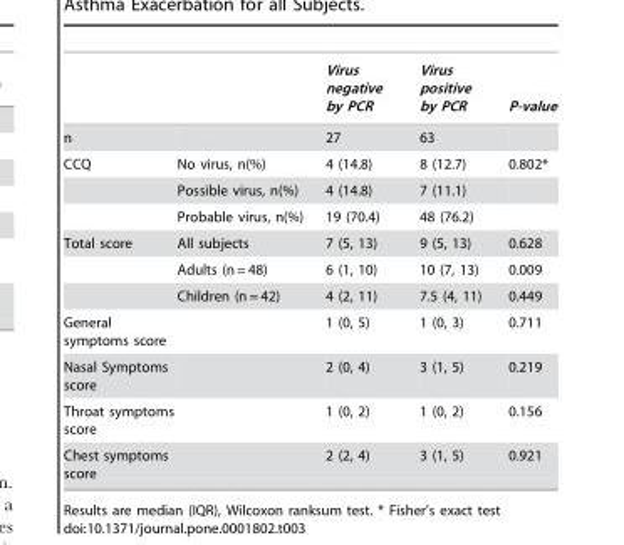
<table><thead><tr><td></td><td></td><td>Virus negative by PCR</td><td>Virus positive by PCR</td><td>P-value</td></tr></thead><tbody><tr><td>n</td><td></td><td>27</td><td>63</td><td></td></tr><tr><td rowspan="3">CCQ</td><td>No virus, n(%)</td><td>4 (14.8)</td><td>8 (12.7)</td><td>0.802*</td></tr><tr><td>Possible virus, n(%)</td><td>4 (14.8)</td><td>7 (11.1)</td><td></td></tr><tr><td>Probable virus, n(%)</td><td>19 (70.4)</td><td>48 (76.2)</td><td></td></tr><tr><td rowspan="3">Total score</td><td>All subjects</td><td>7 (5, 13)</td><td>9 (5, 13)</td><td>0.628</td></tr><tr><td>Adults (n = 48)</td><td>6 (1, 10)</td><td>10 (7, 13)</td><td>0.009</td></tr><tr><td>Children (n = 42)</td><td>4 (2, 11)</td><td>7.5 (4, 11)</td><td>0.449</td></tr><tr><td>General symptoms score</td><td></td><td>1 (0, 5)</td><td>1 (0, 3)</td><td>0.711</td></tr><tr><td>Nasal Symptoms score</td><td></td><td>2 (0, 4)</td><td>3 (1, 5)</td><td>0.219</td></tr><tr><td>Throat symptoms score</td><td></td><td>1 (0, 2)</td><td>1 (0, 2)</td><td>0.156</td></tr><tr><td>Chest symptoms score</td><td></td><td>2 (2, 4)</td><td>3 (1, 5)</td><td>0.921</td></tr></tbody></table>